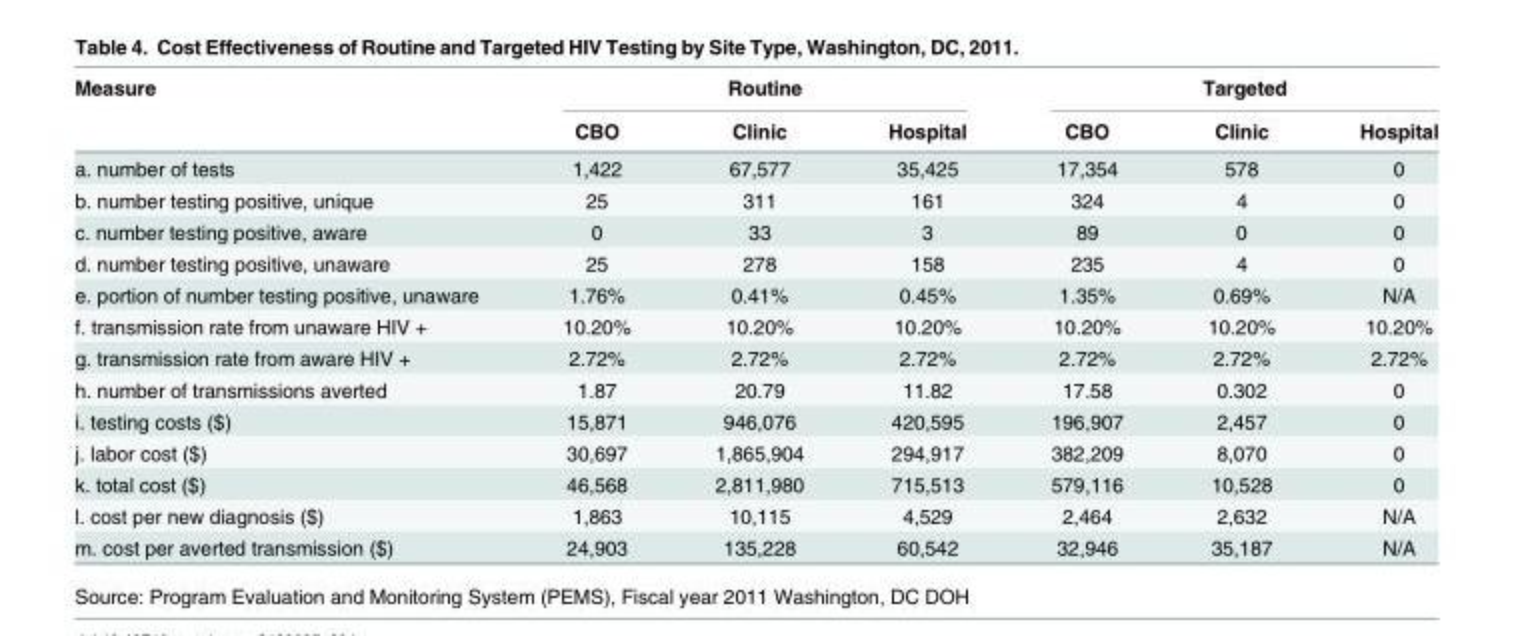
<table><thead><tr><td rowspan="2">Measure</td><td colspan="3">Routine</td><td colspan="3">Targeted</td></tr><tr><td>CBO</td><td>Clinic</td><td>Hospital</td><td>CBO</td><td>Clinic</td><td>Hospital</td></tr></thead><tbody><tr><td>a. number of tests</td><td>1,422</td><td>67,577</td><td>35,425</td><td>17,354</td><td>578</td><td>0</td></tr><tr><td>b. number testing positive, unique</td><td>25</td><td>311</td><td>161</td><td>324</td><td>4</td><td>0</td></tr><tr><td>c. number testing positive, aware</td><td>0</td><td>33</td><td>3</td><td>89</td><td>0</td><td>0</td></tr><tr><td>d. number testing positive, unaware</td><td>25</td><td>278</td><td>158</td><td>235</td><td>4</td><td>0</td></tr><tr><td>e. portion of number testing positive, unaware</td><td>1.76%</td><td>0.41%</td><td>0.45%</td><td>1.35%</td><td>0.69%</td><td>N/A</td></tr><tr><td>f. transmission rate from unaware HIV +</td><td>10.20%</td><td>10.20%</td><td>10.20%</td><td>10.20%</td><td>10.20%</td><td>10.20%</td></tr><tr><td>g. transmission rate from aware HIV +</td><td>2.72%</td><td>2.72%</td><td>2.72%</td><td>2.72%</td><td>2.72%</td><td>2.72%</td></tr><tr><td>h. number of transmissions averted</td><td>1.87</td><td>20.79</td><td>11.82</td><td>17.58</td><td>0.302</td><td>0</td></tr><tr><td>i. testing costs ($)</td><td>15,871</td><td>946,076</td><td>420,595</td><td>196,907</td><td>2,457</td><td>0</td></tr><tr><td>j. labor cost ($)</td><td>30,697</td><td>1,865,904</td><td>294,917</td><td>382,209</td><td>8,070</td><td>0</td></tr><tr><td>k. total cost ($)</td><td>46,568</td><td>2,811,980</td><td>715,513</td><td>579,116</td><td>10,528</td><td>0</td></tr><tr><td>l. cost per new diagnosis ($)</td><td>1,863</td><td>10,115</td><td>4,529</td><td>2,464</td><td>2,632</td><td>N/A</td></tr><tr><td>m. cost per averted transmission ($)</td><td>24,903</td><td>135,228</td><td>60,542</td><td>32,946</td><td>35,187</td><td>N/A</td></tr></tbody></table>